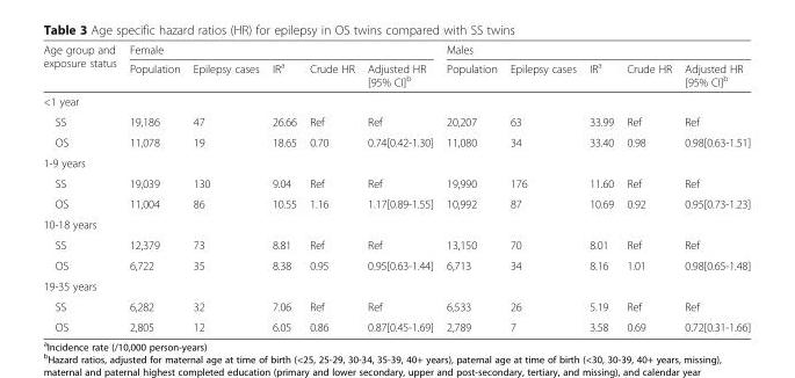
<table><thead><tr><td rowspan="2">Age group and exposure status</td><td colspan="5">Female</td><td colspan="5">Males</td></tr><tr><td>Population</td><td>Epilepsy cases</td><td>IR<sup>a</sup></td><td>Crude HR</td><td>Adjusted HR [95% CI]<sup>b</sup></td><td>Population</td><td>Epilepsy cases</td><td>IR<sup>a</sup></td><td>Crude HR</td><td>Adjusted HR [95% CI]<sup>b</sup></td></tr></thead><tbody><tr><td colspan="11">&lt;1 year</td></tr><tr><td>SS</td><td>19,186</td><td>47</td><td>26.66</td><td>Ref</td><td>Ref</td><td>20,207</td><td>63</td><td>33.99</td><td>Ref</td><td>Ref</td></tr><tr><td>OS</td><td>11,078</td><td>19</td><td>18.65</td><td>0.70</td><td>0.74[0.42-1.30]</td><td>11,080</td><td>34</td><td>33.40</td><td>0.98</td><td>0.98[0.63-1.51]</td></tr><tr><td colspan="11">1-9 years</td></tr><tr><td>SS</td><td>19,039</td><td>130</td><td>9.04</td><td>Ref</td><td>Ref</td><td>19,990</td><td>176</td><td>11.60</td><td>Ref</td><td>Ref</td></tr><tr><td>OS</td><td>11,004</td><td>86</td><td>10.55</td><td>1.16</td><td>1.17[0.89-1.55]</td><td>10,992</td><td>87</td><td>10.69</td><td>0.92</td><td>0.95[0.73-1.23]</td></tr><tr><td colspan="11">10-18 years</td></tr><tr><td>SS</td><td>12,379</td><td>73</td><td>8.81</td><td>Ref</td><td>Ref</td><td>13,150</td><td>70</td><td>8.01</td><td>Ref</td><td>Ref</td></tr><tr><td>OS</td><td>6,722</td><td>35</td><td>8.38</td><td>0.95</td><td>0.95[0.63-1.44]</td><td>6,713</td><td>34</td><td>8.16</td><td>1.01</td><td>0.98[0.65-1.48]</td></tr><tr><td colspan="11">19-35 years</td></tr><tr><td>SS</td><td>6,282</td><td>32</td><td>7.06</td><td>Ref</td><td>Ref</td><td>6,533</td><td>26</td><td>5.19</td><td>Ref</td><td>Ref</td></tr><tr><td>OS</td><td>2,805</td><td>12</td><td>6.05</td><td>0.86</td><td>0.87[0.45-1.69]</td><td>2,789</td><td>7</td><td>3.58</td><td>0.69</td><td>0.72[0.31-1.66]</td></tr></tbody></table>